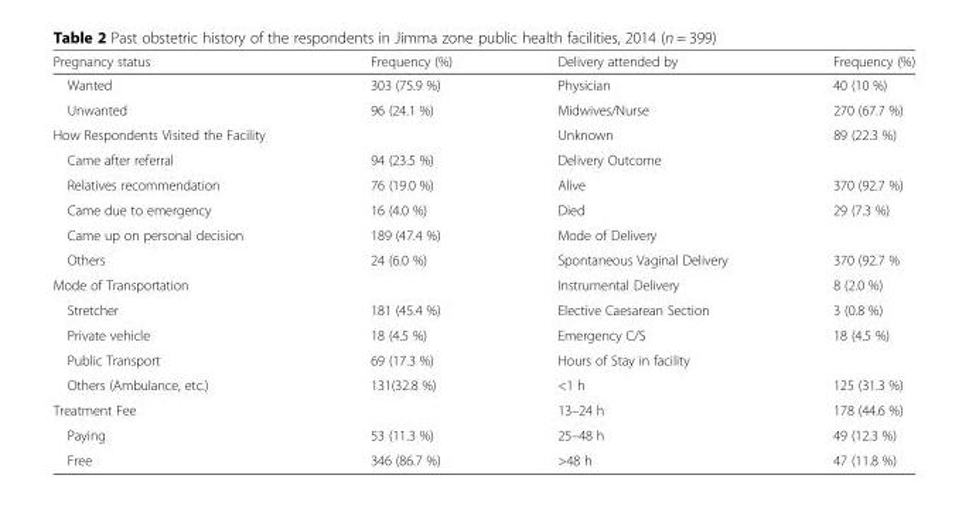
<table><thead><tr><td>Pregnancy status</td><td>Frequency (%)</td><td>Delivery attended by</td><td>Frequency (%)</td></tr></thead><tbody><tr><td>Wanted</td><td>303 (75.9 %)</td><td>Physician</td><td>40 (10 %)</td></tr><tr><td>Unwanted</td><td>96 (24.1 %)</td><td>Midwives/Nurse</td><td>270 (67.7 %)</td></tr><tr><td>How Respondents Visited the Facility</td><td></td><td>Unknown</td><td>89 (22.3 %)</td></tr><tr><td>Came after referral</td><td>94 (23.5 %)</td><td>Delivery Outcome</td><td></td></tr><tr><td>Relatives recommendation</td><td>76 (19.0 %)</td><td>Alive</td><td>370 (92.7 %)</td></tr><tr><td>Came due to emergency</td><td>16 (4.0 %)</td><td>Died</td><td>29 (7.3 %)</td></tr><tr><td>Came up on personal decision</td><td>189 (47.4 %)</td><td>Mode of Delivery</td><td></td></tr><tr><td>Others</td><td>24 (6.0 %)</td><td>Spontaneous Vaginal Delivery</td><td>370 (92.7 %</td></tr><tr><td>Mode of Transportation</td><td></td><td>Instrumental Delivery</td><td>8 (2.0 %)</td></tr><tr><td>Stretcher</td><td>181 (45.4 %)</td><td>Elective Caesarean Section</td><td>3 (0.8 %)</td></tr><tr><td>Private vehicle</td><td>18 (4.5 %)</td><td>Emergency C/S</td><td>18 (4.5 %)</td></tr><tr><td>Public Transport</td><td>69 (17.3 %)</td><td>Hours of Stay in facility</td><td></td></tr><tr><td>Others (Ambulance, etc.)</td><td>131(32.8 %)</td><td>&lt;1 h</td><td>125 (31.3 %)</td></tr><tr><td>Treatment Fee</td><td></td><td>13–24 h</td><td>178 (44.6 %)</td></tr><tr><td>Paying</td><td>53 (11.3 %)</td><td>25–48 h</td><td>49 (12.3 %)</td></tr><tr><td>Free</td><td>346 (86.7 %)</td><td>&gt;48 h</td><td>47 (11.8 %)</td></tr></tbody></table>